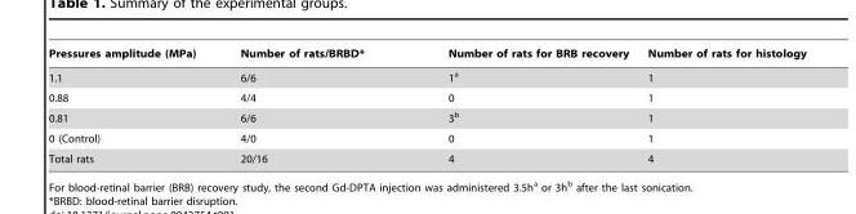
<table><thead><tr><td>Pressures amplitude (MPa)</td><td>Number of rats/BRBD*</td><td>Number of rats for BRB recovery</td><td>Number of rats for histology</td></tr></thead><tbody><tr><td>1.1</td><td>6/6</td><td>1<sup>a</sup></td><td>1</td></tr><tr><td>0.88</td><td>4/4</td><td>0</td><td>1</td></tr><tr><td>0.81</td><td>6/6</td><td>3<sup>b</sup></td><td>1</td></tr><tr><td>0 (Control)</td><td>4/0</td><td>0</td><td>1</td></tr><tr><td>Total rats</td><td>20/16</td><td>4</td><td>4</td></tr></tbody></table>